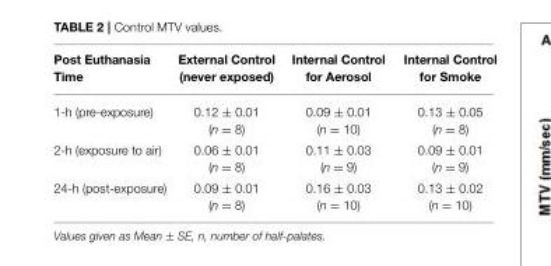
<table><thead><tr><td>Post Euthanasia Time</td><td>External Control (never exposed)</td><td>Internal Control for Aerosol</td><td>Internal Control for Smoke</td></tr></thead><tbody><tr><td>1-h (pre-exposure)</td><td>0.12 ± 0.01 (n = 8)</td><td>0.09 ± 0.01 (n = 10)</td><td>0.13 ± 0.05 (n = 8)</td></tr><tr><td>2-h (exposure to air)</td><td>0.06 ± 0.01 (n = 8)</td><td>0.11 ± 0.03 (n = 9)</td><td>0.09 ± 0.01 (n = 9)</td></tr><tr><td>24-h (post-exposure)</td><td>0.09 ± 0.01 (n = 8)</td><td>0.16 ± 0.03 (n = 10)</td><td>0.13 ± 0.02 (n = 10)</td></tr></tbody></table>